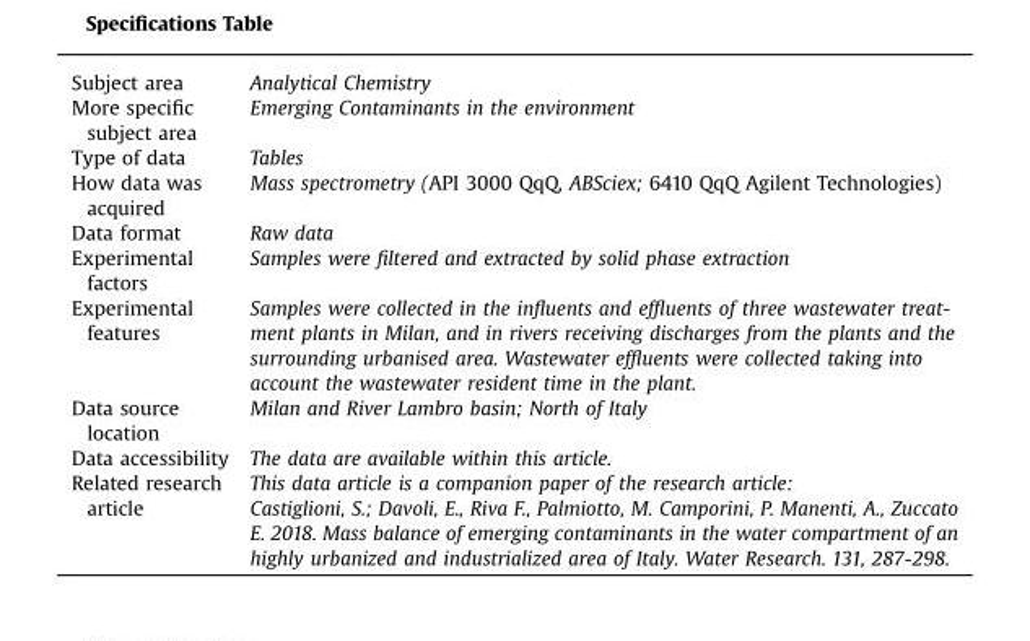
<table><tbody><tr><td>Subject area</td><td>Analytical Chemistry</td></tr><tr><td>More specific subject area</td><td>Emerging Contaminants in the environment</td></tr><tr><td>Type of data</td><td>Tables</td></tr><tr><td>How data was acquired</td><td>Mass spectrometry (API 3000 QqQ, ABSciex; 6410 QqQ Agilent Technologies)</td></tr><tr><td>Data format</td><td>Raw data</td></tr><tr><td>Experimental factors</td><td>Samples were filtered and extracted by solid phase extraction</td></tr><tr><td>Experimental features</td><td>Samples were collected in the influents and effluents of three wastewater treat- ment plants in Milan, and in rivers receiving discharges from the plants and the surrounding urbanised area. Wastewater effluents were collected taking into account the wastewater resident time in the plant.</td></tr><tr><td>Data source location</td><td>Milan and River Lambro basin; North of Italy</td></tr><tr><td>Data accessibility</td><td>The data are available within this article.</td></tr><tr><td rowspan="2">Related research article</td><td>This data article is a companion paper of the research article:</td></tr><tr><td>Castiglioni, S.; Davoli, E., Riva F., Palmiotto, M. Camporini, P. Manenti, A., Zuccato E. 2018. Mass balance of emerging contaminants in the water compartment of an highly urbanized and industrialized area of Italy. Water Research. 131, 287-298.</td></tr></tbody></table>